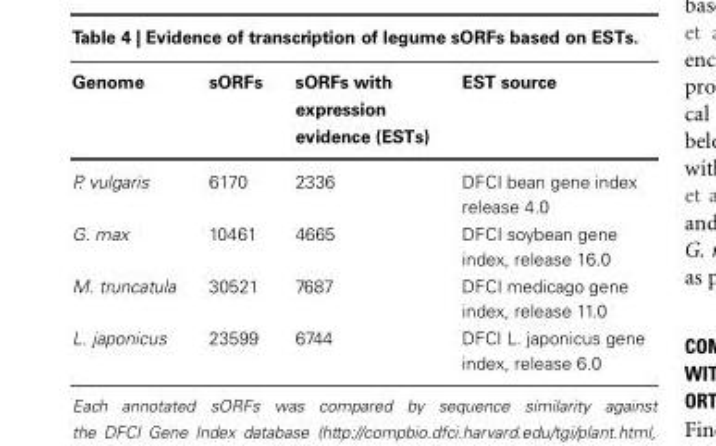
<table><thead><tr><td>Genome</td><td>sORFs</td><td>sORFs with expression evidence (ESTs)</td><td>EST source</td></tr></thead><tbody><tr><td>P. vulgaris</td><td>6170</td><td>2336</td><td>DFCI bean gene index release 4.0</td></tr><tr><td>G. max</td><td>10461</td><td>4665</td><td>DFCI soybean gene index, release 16.0</td></tr><tr><td>M. truncatula</td><td>30521</td><td>7687</td><td>DFCI medicago gene index, release 11.0</td></tr><tr><td>L. japonicus</td><td>23599</td><td>6744</td><td>DFCI L. japonicus gene index, release 6.0</td></tr></tbody></table>